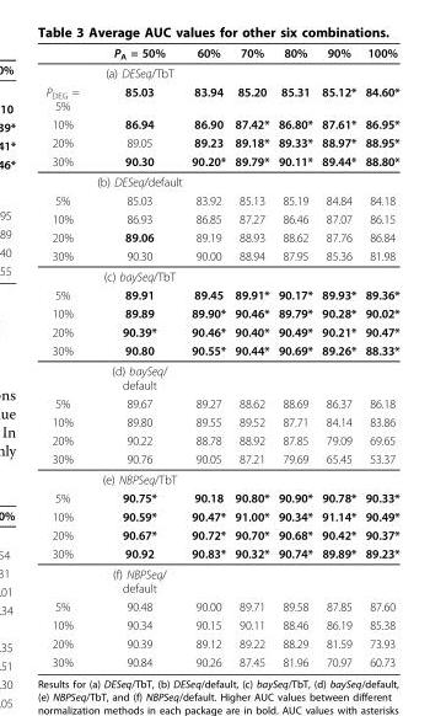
<table><thead><tr><td></td><td>P<sub>A</sub> = 50%</td><td>60%</td><td>70%</td><td>80%</td><td>90%</td><td>100%</td></tr></thead><tbody><tr><td></td><td>(a) DESeq/TbT</td><td></td><td></td><td></td><td></td><td></td></tr><tr><td>P<sub>DEG</sub> = 5%</td><td>85.03</td><td>83.94</td><td>85.20</td><td>85.31</td><td>85.12*</td><td>84.60*</td></tr><tr><td>10%</td><td>86.94</td><td>86.90</td><td>87.42*</td><td>86.80*</td><td>87.61*</td><td>86.95*</td></tr><tr><td>20%</td><td>89.05</td><td>89.23</td><td>89.18*</td><td>89.33*</td><td>88.97*</td><td>88.95*</td></tr><tr><td rowspan="2">30%</td><td>90.30</td><td>90.20*</td><td>89.79*</td><td>90.11*</td><td>89.44*</td><td>88.80*</td></tr><tr><td>(b) DESeq/default</td><td></td><td></td><td></td><td></td><td></td></tr><tr><td>5%</td><td>85.03</td><td>83.92</td><td>85.13</td><td>85.19</td><td>84.84</td><td>84.18</td></tr><tr><td>10%</td><td>86.93</td><td>86.85</td><td>87.27</td><td>86.46</td><td>87.07</td><td>86.15</td></tr><tr><td>20%</td><td>89.06</td><td>89.19</td><td>88.93</td><td>88.62</td><td>87.76</td><td>86.84</td></tr><tr><td rowspan="2">30%</td><td>90.30</td><td>90.00</td><td>88.94</td><td>87.95</td><td>85.36</td><td>81.98</td></tr><tr><td>(c) baySeq/TbT</td><td></td><td></td><td></td><td></td><td></td></tr><tr><td>5%</td><td>89.91</td><td>89.45</td><td>89.91*</td><td>90.17*</td><td>89.93*</td><td>89.36*</td></tr><tr><td>10%</td><td>89.89</td><td>89.90*</td><td>90.46*</td><td>89.79*</td><td>90.28*</td><td>90.02*</td></tr><tr><td>20%</td><td>90.39*</td><td>90.46*</td><td>90.40*</td><td>90.49*</td><td>90.21*</td><td>90.47*</td></tr><tr><td rowspan="2">30%</td><td>90.80</td><td>90.55*</td><td>90.44*</td><td>90.69*</td><td>89.26*</td><td>88.33*</td></tr><tr><td>(d) baySeq/ default</td><td></td><td></td><td></td><td></td><td></td></tr><tr><td>5%</td><td>89.67</td><td>89.27</td><td>88.62</td><td>88.69</td><td>86.37</td><td>86.18</td></tr><tr><td>10%</td><td>89.80</td><td>89.55</td><td>89.52</td><td>87.71</td><td>84.14</td><td>83.86</td></tr><tr><td>20%</td><td>90.22</td><td>88.78</td><td>88.92</td><td>87.85</td><td>79.09</td><td>69.65</td></tr><tr><td rowspan="2">30%</td><td>90.76</td><td>90.05</td><td>87.21</td><td>79.69</td><td>65.45</td><td>53.37</td></tr><tr><td>(e) NBPSeq/TbT</td><td></td><td></td><td></td><td></td><td></td></tr><tr><td>5%</td><td>90.75*</td><td>90.18</td><td>90.80*</td><td>90.90*</td><td>90.78*</td><td>90.33*</td></tr><tr><td>10%</td><td>90.59*</td><td>90.47*</td><td>91.00*</td><td>90.34*</td><td>91.14*</td><td>90.49*</td></tr><tr><td>20%</td><td>90.67*</td><td>90.72*</td><td>90.70*</td><td>90.68*</td><td>90.42*</td><td>90.37*</td></tr><tr><td rowspan="2">30%</td><td>90.92</td><td>90.83*</td><td>90.32*</td><td>90.74*</td><td>89.89*</td><td>89.23*</td></tr><tr><td>(f) NBPSeq/ default</td><td></td><td></td><td></td><td></td><td></td></tr><tr><td>5%</td><td>90.48</td><td>90.00</td><td>89.71</td><td>89.58</td><td>87.85</td><td>87.60</td></tr><tr><td>10%</td><td>90.34</td><td>90.15</td><td>90.11</td><td>88.46</td><td>86.19</td><td>85.38</td></tr><tr><td>20%</td><td>90.39</td><td>89.12</td><td>89.22</td><td>88.29</td><td>81.59</td><td>73.93</td></tr><tr><td>30%</td><td>90.84</td><td>90.26</td><td>87.45</td><td>81.96</td><td>70.97</td><td>60.73</td></tr></tbody></table>